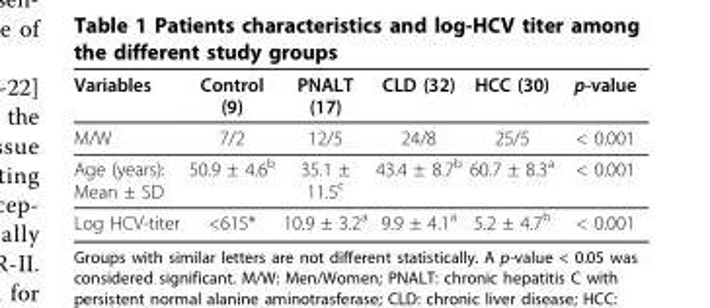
<table><thead><tr><td>Variables</td><td>Control (9)</td><td>PNALT (17)</td><td>CLD (32)</td><td>HCC (30)</td><td>p-value</td></tr></thead><tbody><tr><td>M/W</td><td>7/2</td><td>12/5</td><td>24/8</td><td>25/5</td><td>&lt; 0.001</td></tr><tr><td>Age (years): Mean ± SD</td><td>50.9 ± 4.6<sup>b</sup></td><td>35.1 ± 11.5<sup>c</sup></td><td>43.4 ± 8.7<sup>b</sup></td><td>60.7 ± 8.3<sup>a</sup></td><td>&lt; 0.001</td></tr><tr><td>Log HCV-titer</td><td>&lt;615*</td><td>10.9 ± 3.2<sup>a</sup></td><td>9.9 ± 4.1<sup>a</sup></td><td>5.2 ± 4.7<sup>b</sup></td><td>&lt; 0.001</td></tr></tbody></table>